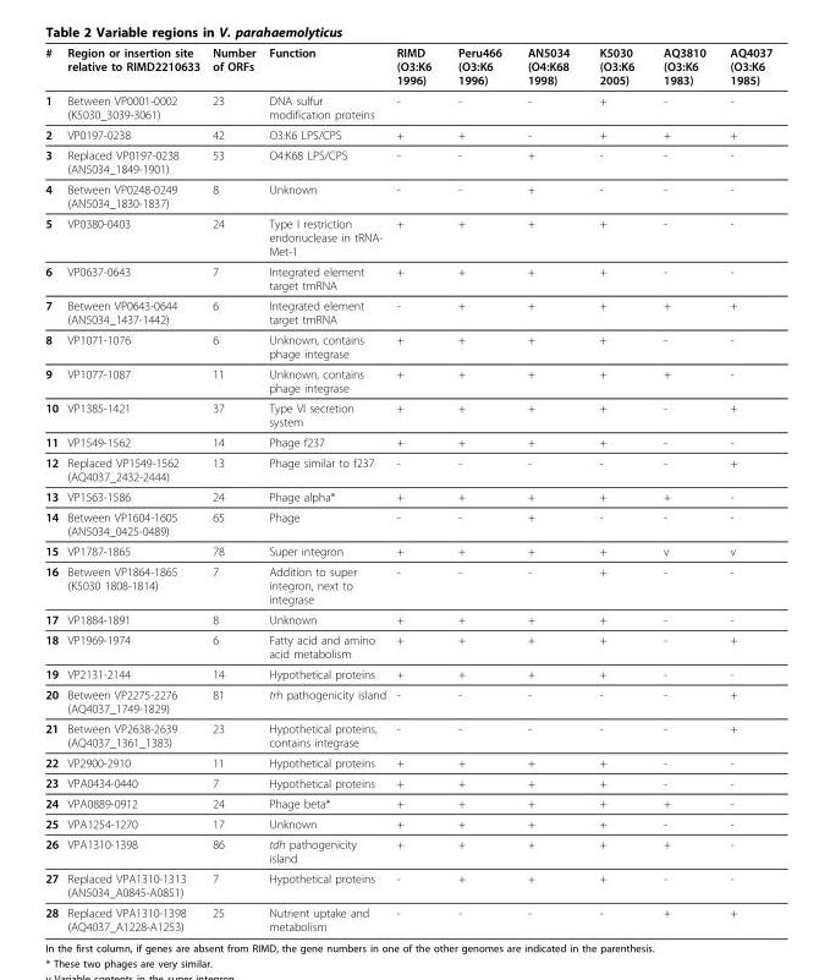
<table><thead><tr><td>#</td><td>Region or insertion site relative to RIMD2210633</td><td>Number of ORFs</td><td>Function</td><td>RIMD (O3:K6 1996)</td><td>Peru466 (O3:K6 1996)</td><td>AN5034 (O4:K68 1998)</td><td>K5030 (O3:K6 2005)</td><td>AQ3810 (O3:K6 1983)</td><td>AQ4037 (O3:K6 1985)</td></tr></thead><tbody><tr><td>1</td><td>Between VP0001-0002 (K5030_3039-3061)</td><td>23</td><td>DNA sulfur modification proteins</td><td>-</td><td>-</td><td>-</td><td>+</td><td>-</td><td>-</td></tr><tr><td>2</td><td>VP0197-0238</td><td>42</td><td>O3:K6 LPS/CPS</td><td>+</td><td>+</td><td>-</td><td>+</td><td>+</td><td>+</td></tr><tr><td>3</td><td>Replaced VP0197-0238 (AN5034_1849-1901)</td><td>53</td><td>O4:K68 LPS/CPS</td><td>-</td><td>-</td><td>+</td><td>-</td><td>-</td><td>-</td></tr><tr><td>4</td><td>Between VP0248-0249 (AN5034_1830-1837)</td><td>8</td><td>Unknown</td><td>-</td><td>-</td><td>+</td><td>-</td><td>-</td><td>-</td></tr><tr><td>5</td><td>VP0380-0403</td><td>24</td><td>Type I restriction endonuclease in tRNA- Met-1</td><td>+</td><td>+</td><td>+</td><td>+</td><td>-</td><td>-</td></tr><tr><td>6</td><td>VP0637-0643</td><td>7</td><td>Integrated element target tmRNA</td><td>+</td><td>+</td><td>+</td><td>+</td><td>-</td><td>-</td></tr><tr><td>7</td><td>Between VP0643-0644 (AN5034_1437-1442)</td><td>6</td><td>Integrated element target tmRNA</td><td>-</td><td>+</td><td>+</td><td>+</td><td>+</td><td>+</td></tr><tr><td>8</td><td>VP1071-1076</td><td>6</td><td>Unknown, contains phage integrase</td><td>+</td><td>+</td><td>+</td><td>+</td><td>-</td><td>-</td></tr><tr><td>9</td><td>VP1077-1087</td><td>11</td><td>Unknown, contains phage integrase</td><td>+</td><td>+</td><td>+</td><td>+</td><td>+</td><td>-</td></tr><tr><td>10</td><td>VP1385-1421</td><td>37</td><td>Type VI secretion system</td><td>+</td><td>+</td><td>+</td><td>+</td><td>-</td><td>+</td></tr><tr><td>11</td><td>VP1549-1562</td><td>14</td><td>Phage f237</td><td>+</td><td>+</td><td>+</td><td>+</td><td>-</td><td>-</td></tr><tr><td>12</td><td>Replaced VP1549-1562 (AQ4037_2432-2444)</td><td>13</td><td>Phage similar to f237</td><td>-</td><td>-</td><td>-</td><td>-</td><td>-</td><td>+</td></tr><tr><td>13</td><td>VP1563-1586</td><td>24</td><td>Phage alpha*</td><td>+</td><td>+</td><td>+</td><td>+</td><td>+</td><td>-</td></tr><tr><td>14</td><td>Between VP1604-1605 (AN5034_0425-0489)</td><td>65</td><td>Phage</td><td>-</td><td>-</td><td>+</td><td>-</td><td>-</td><td>-</td></tr><tr><td>15</td><td>VP1787-1865</td><td>78</td><td>Super integron</td><td>+</td><td>+</td><td>+</td><td>+</td><td>v</td><td>v</td></tr><tr><td>16</td><td>Between VP1864-1865 (K5030 1808-1814)</td><td>7</td><td>Addition to super integron, next to integrase</td><td>-</td><td>-</td><td>-</td><td>+</td><td>-</td><td>-</td></tr><tr><td>17</td><td>VP1884-1891</td><td>8</td><td>Unknown</td><td>+</td><td>+</td><td>+</td><td>+</td><td>-</td><td>-</td></tr><tr><td>18</td><td>VP1969-1974</td><td>6</td><td>Fatty acid and amino acid metabolism</td><td>+</td><td>+</td><td>+</td><td>+</td><td>-</td><td>+</td></tr><tr><td>19</td><td>VP2131-2144</td><td>14</td><td>Hypothetical proteins</td><td>+</td><td>+</td><td>+</td><td>+</td><td>-</td><td>-</td></tr><tr><td>20</td><td>Between VP2275-2276 (AQ4037_1749-1829)</td><td>81</td><td>trh pathogenicity island</td><td>-</td><td>-</td><td>-</td><td>-</td><td>-</td><td>+</td></tr><tr><td>21</td><td>Between VP2638-2639 (AQ4037_1361_1383)</td><td>23</td><td>Hypothetical proteins, contains integrase</td><td>-</td><td>-</td><td>-</td><td>-</td><td>-</td><td>+</td></tr><tr><td>22</td><td>VP2900-2910</td><td>11</td><td>Hypothetical proteins</td><td>+</td><td>+</td><td>+</td><td>+</td><td>-</td><td>-</td></tr><tr><td>23</td><td>VPA0434-0440</td><td>7</td><td>Hypothetical proteins</td><td>+</td><td>+</td><td>+</td><td>+</td><td>-</td><td>-</td></tr><tr><td>24</td><td>VPA0889-0912</td><td>24</td><td>Phage beta*</td><td>+</td><td>+</td><td>+</td><td>+</td><td>+</td><td>-</td></tr><tr><td>25</td><td>VPA1254-1270</td><td>17</td><td>Unknown</td><td>+</td><td>+</td><td>+</td><td>+</td><td>-</td><td>-</td></tr><tr><td>26</td><td>VPA1310-1398</td><td>86</td><td>tdh pathogenicity island</td><td>+</td><td>+</td><td>+</td><td>+</td><td>+</td><td>-</td></tr><tr><td>27</td><td>Replaced VPA1310-1313 (AN5034_A0845-A0851)</td><td>7</td><td>Hypothetical proteins</td><td>-</td><td>+</td><td>+</td><td>+</td><td>-</td><td>-</td></tr><tr><td>28</td><td>Replaced VPA1310-1398 (AQ4037_A1228-A1253)</td><td>25</td><td>Nutrient uptake and metabolism</td><td>-</td><td>-</td><td>-</td><td>-</td><td>+</td><td>+</td></tr></tbody></table>